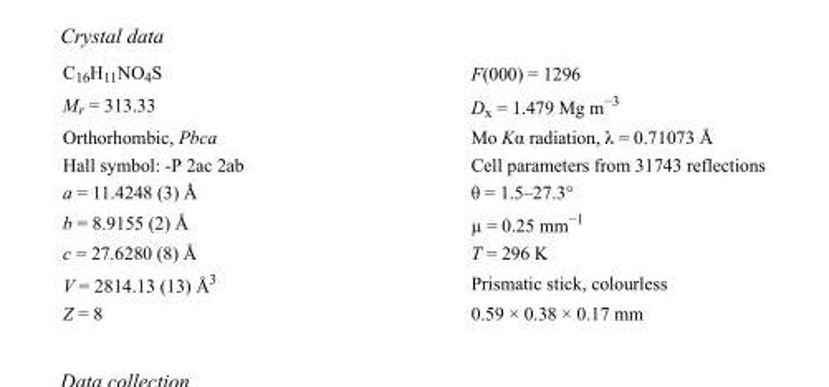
<table><tbody><tr><td>C<sub>16</sub>H<sub>11</sub>NO<sub>4</sub>S</td><td>F(000) = 1296</td></tr><tr><td>M<sub>r</sub> = 313.33</td><td>D<sub>x</sub> = 1.479 Mg m<sup>−3</sup></td></tr><tr><td>Orthorhombic, Pbca</td><td>Mo Kα radiation, λ = 0.71073 Å</td></tr><tr><td>Hall symbol: -P 2ac 2ab</td><td>Cell parameters from 31743 reflections</td></tr><tr><td>a = 11.4248 (3) Å</td><td>θ = 1.5–27.3°</td></tr><tr><td>b = 8.9155 (2) Å</td><td>µ = 0.25 mm<sup>−1</sup></td></tr><tr><td>c = 27.6280 (8) Å</td><td>T = 296 K</td></tr><tr><td>V = 2814.13 (13) Å<sup>3</sup></td><td>Prismatic stick, colourless</td></tr><tr><td>Z = 8</td><td>0.59 × 0.38 × 0.17 mm</td></tr></tbody></table>